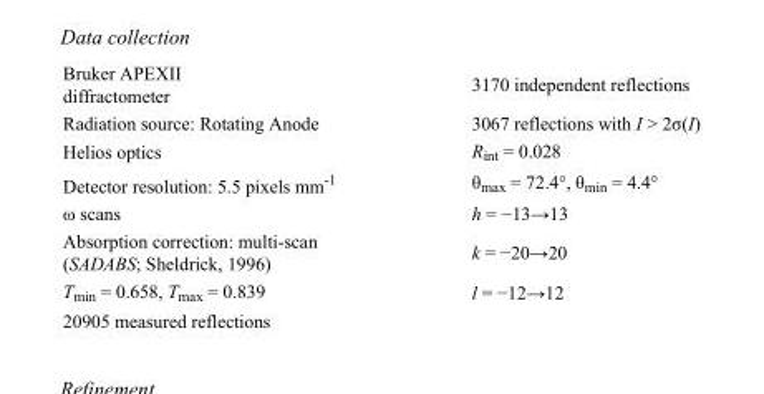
<table><tbody><tr><td>Bruker APEXII diffractometer</td><td>3170 independent reflections</td></tr><tr><td>Radiation source: Rotating Anode</td><td>3067 reflections with I &gt; 2σ(I)</td></tr><tr><td>Helios optics</td><td>R<sub>int</sub> = 0.028</td></tr><tr><td>Detector resolution: 5.5 pixels mm<sup>-1</sup></td><td>θ<sub>max</sub> = 72.4°, θ<sub>min</sub> = 4.4°</td></tr><tr><td>ω scans</td><td>h = −13→13</td></tr><tr><td>Absorption correction: multi-scan (SADABS; Sheldrick, 1996)</td><td>k = −20→20</td></tr><tr><td>T<sub>min</sub> = 0.658, T<sub>max</sub> = 0.839</td><td>l = −12→12</td></tr><tr><td>20905 measured reflections</td><td></td></tr></tbody></table>